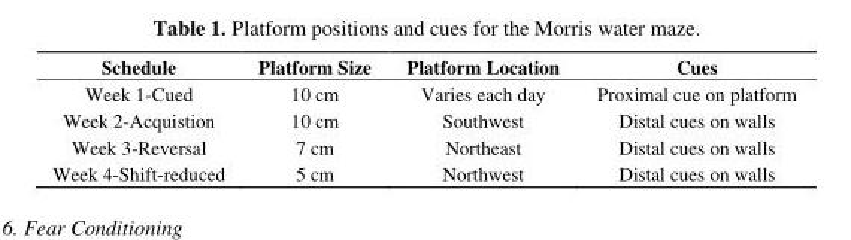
<table><thead><tr><td>Schedule</td><td>Platform Size</td><td>Platform Location</td><td>Cues</td></tr></thead><tbody><tr><td>Week 1-Cued</td><td>10 cm</td><td>Varies each day</td><td>Proximal cue on platform</td></tr><tr><td>Week 2-Acquistion</td><td>10 cm</td><td>Southwest</td><td>Distal cues on walls</td></tr><tr><td>Week 3-Reversal</td><td>7 cm</td><td>Northeast</td><td>Distal cues on walls</td></tr><tr><td>Week 4-Shift-reduced</td><td>5 cm</td><td>Northwest</td><td>Distal cues on walls</td></tr></tbody></table>